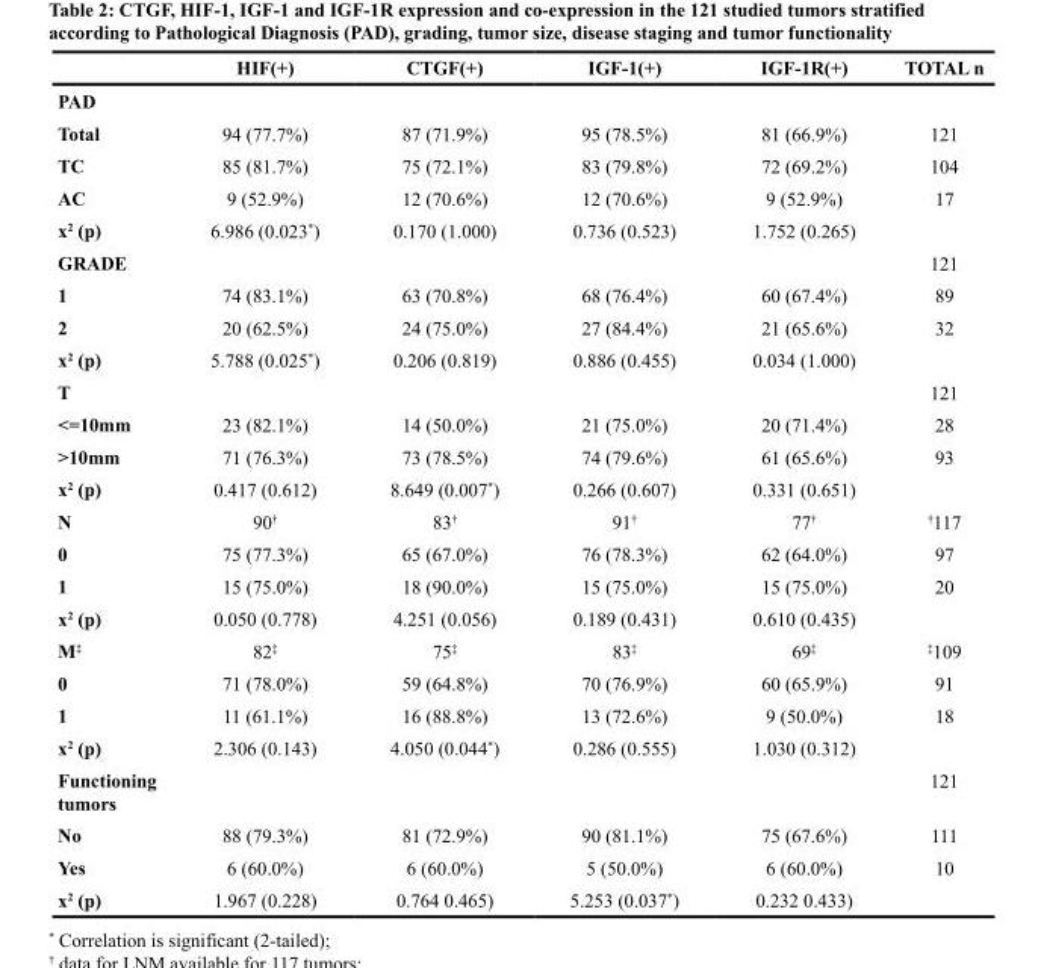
<table><thead><tr><td></td><td>HIF(+)</td><td>CTGF(+)</td><td>IGF-1(+)</td><td>IGF-1R(+)</td><td>TOTAL n</td></tr></thead><tbody><tr><td colspan="6">PAD</td></tr><tr><td>Total</td><td>94 (77.7%)</td><td>87 (71.9%)</td><td>95 (78.5%)</td><td>81 (66.9%)</td><td>121</td></tr><tr><td>TC</td><td>85 (81.7%)</td><td>75 (72.1%)</td><td>83 (79.8%)</td><td>72 (69.2%)</td><td>104</td></tr><tr><td>AC</td><td>9 (52.9%)</td><td>12 (70.6%)</td><td>12 (70.6%)</td><td>9 (52.9%)</td><td>17</td></tr><tr><td>x<sup>2</sup> (p)</td><td>6.986 (0.023*)</td><td>0.170 (1.000)</td><td>0.736 (0.523)</td><td>1.752 (0.265)</td><td></td></tr><tr><td>GRADE</td><td></td><td></td><td></td><td></td><td>121</td></tr><tr><td>1</td><td>74 (83.1%)</td><td>63 (70.8%)</td><td>68 (76.4%)</td><td>60 (67.4%)</td><td>89</td></tr><tr><td>2</td><td>20 (62.5%)</td><td>24 (75.0%)</td><td>27 (84.4%)</td><td>21 (65.6%)</td><td>32</td></tr><tr><td>x<sup>2</sup> (p)</td><td>5.788 (0.025*)</td><td>0.206 (0.819)</td><td>0.886 (0.455)</td><td>0.034 (1.000)</td><td></td></tr><tr><td>Τ</td><td></td><td></td><td></td><td></td><td>121</td></tr><tr><td>&lt;=10mm</td><td>23 (82.1%)</td><td>14 (50.0%)</td><td>21 (75.0%)</td><td>20 (71.4%)</td><td>28</td></tr><tr><td>&gt;10mm</td><td>71 (76.3%)</td><td>73 (78.5%)</td><td>74 (79.6%)</td><td>61 (65.6%)</td><td>93</td></tr><tr><td>x<sup>2</sup> (p)</td><td>0.417 (0.612)</td><td>8.649 (0.007*)</td><td>0.266 (0.607)</td><td>0.331 (0.651)</td><td></td></tr><tr><td>N</td><td>90<sup>†</sup></td><td>83<sup>†</sup></td><td>91<sup>†</sup></td><td>77<sup>†</sup></td><td><sup>†</sup>117</td></tr><tr><td>0</td><td>75 (77.3%)</td><td>65 (67.0%)</td><td>76 (78.3%)</td><td>62 (64.0%)</td><td>97</td></tr><tr><td>1</td><td>15 (75.0%)</td><td>18 (90.0%)</td><td>15 (75.0%)</td><td>15 (75.0%)</td><td>20</td></tr><tr><td>x<sup>2</sup> (p)</td><td>0.050 (0.778)</td><td>4.251 (0.056)</td><td>0.189 (0.431)</td><td>0.610 (0.435)</td><td></td></tr><tr><td>M<sup>‡</sup></td><td>82<sup>‡</sup></td><td>75<sup>‡</sup></td><td>83<sup>‡</sup></td><td>69<sup>‡</sup></td><td><sup>‡</sup>109</td></tr><tr><td>0</td><td>71 (78.0%)</td><td>59 (64.8%)</td><td>70 (76.9%)</td><td>60 (65.9%)</td><td>91</td></tr><tr><td>1</td><td>11 (61.1%)</td><td>16 (88.8%)</td><td>13 (72.6%)</td><td>9 (50.0%)</td><td>18</td></tr><tr><td>x<sup>2</sup> (p)</td><td>2.306 (0.143)</td><td>4.050 (0.044*)</td><td>0.286 (0.555)</td><td>1.030 (0.312)</td><td></td></tr><tr><td>Functioning tumors</td><td></td><td></td><td></td><td></td><td>121</td></tr><tr><td>No</td><td>88 (79.3%)</td><td>81 (72.9%)</td><td>90 (81.1%)</td><td>75 (67.6%)</td><td>111</td></tr><tr><td>Yes</td><td>6 (60.0%)</td><td>6 (60.0%)</td><td>5 (50.0%)</td><td>6 (60.0%)</td><td>10</td></tr><tr><td>x<sup>2</sup> (p)</td><td>1.967 (0.228)</td><td>0.764 0.465)</td><td>5.253 (0.037*)</td><td>0.232 0.433)</td><td></td></tr></tbody></table>